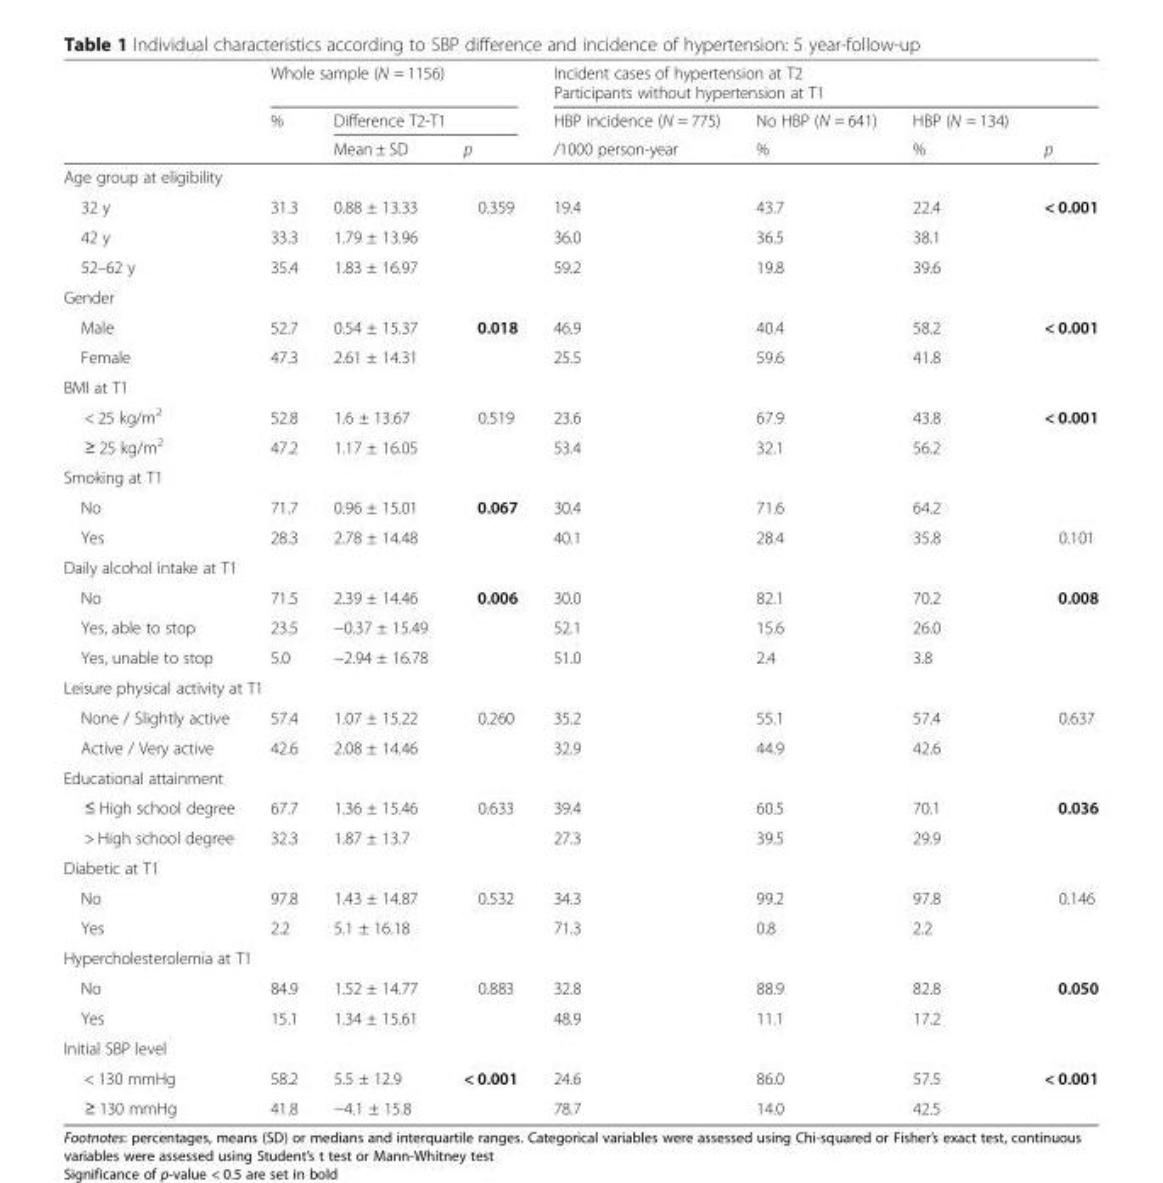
<table><thead><tr><td rowspan="3"></td><td colspan="3">Whole sample (N = 1156)</td><td colspan="4">Incident cases of hypertension at T2 Participants without hypertension at T1</td></tr><tr><td rowspan="2">%</td><td colspan="2">Difference T2-T1</td><td rowspan="2">HBP incidence (N = 775) /1000 person-year</td><td rowspan="2">No HBP (N = 641) %</td><td rowspan="2">HBP (N = 134) %</td><td rowspan="2">p</td></tr><tr><td>Mean ± SD</td><td>p</td></tr></thead><tbody><tr><td colspan="8">Age group at eligibility</td></tr><tr><td>32 y</td><td>31.3</td><td>0.88 ± 13.33</td><td>0.359</td><td>19.4</td><td>43.7</td><td>22.4</td><td>&lt; 0.001</td></tr><tr><td>42 y</td><td>33.3</td><td>1.79 ± 13.96</td><td></td><td>36.0</td><td>36.5</td><td>38.1</td><td></td></tr><tr><td>52–62 y</td><td>35.4</td><td>1.83 ± 16.97</td><td></td><td>59.2</td><td>19.8</td><td>39.6</td><td></td></tr><tr><td colspan="8">Gender</td></tr><tr><td>Male</td><td>52.7</td><td>0.54 ± 15.37</td><td>0.018</td><td>46.9</td><td>40.4</td><td>58.2</td><td>&lt; 0.001</td></tr><tr><td>Female</td><td>47.3</td><td>2.61 ± 14.31</td><td></td><td>25.5</td><td>59.6</td><td>41.8</td><td></td></tr><tr><td colspan="8">BMI at T1</td></tr><tr><td>&lt; 25 kg/m<sup>2</sup></td><td>52.8</td><td>1.6 ± 13.67</td><td>0.519</td><td>23.6</td><td>67.9</td><td>43.8</td><td>&lt; 0.001</td></tr><tr><td>≥ 25 kg/m<sup>2</sup></td><td>47.2</td><td>1.17 ± 16.05</td><td></td><td>53.4</td><td>32.1</td><td>56.2</td><td></td></tr><tr><td colspan="8">Smoking at T1</td></tr><tr><td>No</td><td>71.7</td><td>0.96 ± 15.01</td><td>0.067</td><td>30.4</td><td>71.6</td><td>64.2</td><td></td></tr><tr><td>Yes</td><td>28.3</td><td>2.78 ± 14.48</td><td></td><td>40.1</td><td>28.4</td><td>35.8</td><td>0.101</td></tr><tr><td colspan="8">Daily alcohol intake at T1</td></tr><tr><td>No</td><td>71.5</td><td>2.39 ± 14.46</td><td>0.006</td><td>30.0</td><td>82.1</td><td>70.2</td><td>0.008</td></tr><tr><td>Yes, able to stop</td><td>23.5</td><td>−0.37 ± 15.49</td><td></td><td>52.1</td><td>15.6</td><td>26.0</td><td></td></tr><tr><td>Yes, unable to stop</td><td>5.0</td><td>−2.94 ± 16.78</td><td></td><td>51.0</td><td>2.4</td><td>3.8</td><td></td></tr><tr><td colspan="8">Leisure physical activity at T1</td></tr><tr><td>None / Slightly active</td><td>57.4</td><td>1.07 ± 15.22</td><td>0.260</td><td>35.2</td><td>55.1</td><td>57.4</td><td>0.637</td></tr><tr><td>Active / Very active</td><td>42.6</td><td>2.08 ± 14.46</td><td></td><td>32.9</td><td>44.9</td><td>42.6</td><td></td></tr><tr><td colspan="8">Educational attainment</td></tr><tr><td>≤ High school degree</td><td>67.7</td><td>1.36 ± 15.46</td><td>0.633</td><td>39.4</td><td>60.5</td><td>70.1</td><td>0.036</td></tr><tr><td>&gt; High school degree</td><td>32.3</td><td>1.87 ± 13.7</td><td></td><td>27.3</td><td>39.5</td><td>29.9</td><td></td></tr><tr><td colspan="8">Diabetic at T1</td></tr><tr><td>No</td><td>97.8</td><td>1.43 ± 14.87</td><td>0.532</td><td>34.3</td><td>99.2</td><td>97.8</td><td>0.146</td></tr><tr><td>Yes</td><td>2.2</td><td>5.1 ± 16.18</td><td></td><td>71.3</td><td>0.8</td><td>2.2</td><td></td></tr><tr><td colspan="8">Hypercholesterolemia at T1</td></tr><tr><td>No</td><td>84.9</td><td>1.52 ± 14.77</td><td>0.883</td><td>32.8</td><td>88.9</td><td>82.8</td><td>0.050</td></tr><tr><td>Yes</td><td>15.1</td><td>1.34 ± 15.61</td><td></td><td>48.9</td><td>11.1</td><td>17.2</td><td></td></tr><tr><td colspan="8">Initial SBP level</td></tr><tr><td>&lt; 130 mmHg</td><td>58.2</td><td>5.5 ± 12.9</td><td>&lt; 0.001</td><td>24.6</td><td>86.0</td><td>57.5</td><td>&lt; 0.001</td></tr><tr><td>≥ 130 mmHg</td><td>41.8</td><td>−4.1 ± 15.8</td><td></td><td>78.7</td><td>14.0</td><td>42.5</td><td></td></tr></tbody></table>